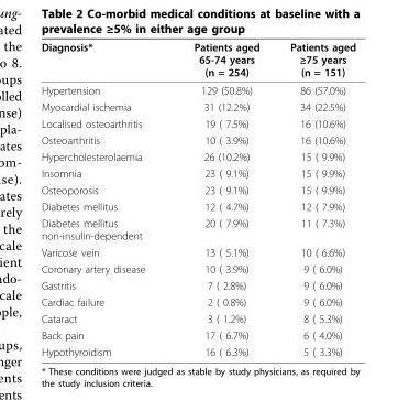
<table><thead><tr><td>Diagnosis*</td><td>Patients aged 65-74 years (n = 254)</td><td>Patients aged ≥75 years (n = 151)</td></tr></thead><tbody><tr><td>Hypertension</td><td>129 (50.8%)</td><td>86 (57.0%)</td></tr><tr><td>Myocardial ischemia</td><td>31 (12.2%)</td><td>34 (22.5%)</td></tr><tr><td>Localised osteoarthritis</td><td>19 ( 7.5%)</td><td>16 (10.6%)</td></tr><tr><td>Osteoarthritis</td><td>10 ( 3.9%)</td><td>16 (10.6%)</td></tr><tr><td>Hypercholesterolaemia</td><td>26 (10.2%)</td><td>15 ( 9.9%)</td></tr><tr><td>Insomnia</td><td>23 ( 9.1%)</td><td>15 ( 9.9%)</td></tr><tr><td>Osteoporosis</td><td>23 ( 9.1%)</td><td>15 ( 9.9%)</td></tr><tr><td>Diabetes mellitus</td><td>12 ( 4.7%)</td><td>12 ( 7.9%)</td></tr><tr><td>Diabetes mellitus non-insulin-dependent</td><td>20 ( 7.9%)</td><td>11 ( 7.3%)</td></tr><tr><td>Varicose vein</td><td>13 ( 5.1%)</td><td>10 ( 6.6%)</td></tr><tr><td>Coronary artery disease</td><td>10 ( 3.9%)</td><td>9 ( 6.0%)</td></tr><tr><td>Gastritis</td><td>7 ( 2.8%)</td><td>9 ( 6.0%)</td></tr><tr><td>Cardiac failure</td><td>2 ( 0.8%)</td><td>9 ( 6.0%)</td></tr><tr><td>Cataract</td><td>3 ( 1.2%)</td><td>8 ( 5.3%)</td></tr><tr><td>Back pain</td><td>17 ( 6.7%)</td><td>6 ( 4.0%)</td></tr><tr><td>Hypothyroidism</td><td>16 ( 6.3%)</td><td>5 ( 3.3%)</td></tr></tbody></table>